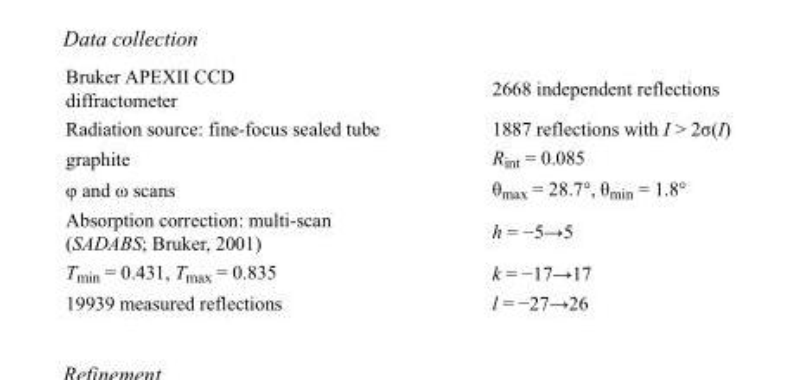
<table><tbody><tr><td>Bruker APEXII CCD diffractometer</td><td>2668 independent reflections</td></tr><tr><td>Radiation source: fine-focus sealed tube</td><td>1887 reflections with I &gt; 2σ(I)</td></tr><tr><td>graphite</td><td>R<sub>int</sub> = 0.085</td></tr><tr><td>φ and ω scans</td><td>θ<sub>max</sub> = 28.7°, θ<sub>min</sub> = 1.8°</td></tr><tr><td>Absorption correction: multi-scan (SADABS; Bruker, 2001)</td><td>h = −5→5</td></tr><tr><td>T<sub>min</sub> = 0.431, T<sub>max</sub> = 0.835</td><td>k = −17→17</td></tr><tr><td>19939 measured reflections</td><td>l = −27→26</td></tr></tbody></table>